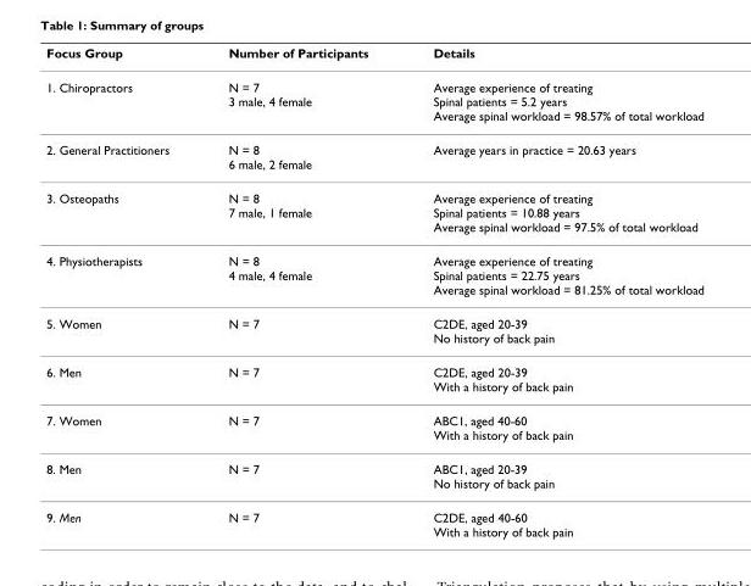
<table><thead><tr><td>Focus Group</td><td>Number of Participants</td><td>Details</td></tr></thead><tbody><tr><td>1. Chiropractors</td><td>N = 7 3 male, 4 female</td><td>Average experience of treating Spinal patients = 5.2 years Average spinal workload = 98.57% of total workload</td></tr><tr><td>2. General Practitioners</td><td>N = 8 6 male, 2 female</td><td>Average years in practice = 20.63 years</td></tr><tr><td>3. Osteopaths</td><td>N = 8 7 male, 1 female</td><td>Average experience of treating Spinal patients = 10.88 years Average spinal workload = 97.5% of total workload</td></tr><tr><td>4. Physiotherapists</td><td>N = 8 4 male, 4 female</td><td>Average experience of treating Spinal patients = 22.75 years Average spinal workload = 81.25% of total workload</td></tr><tr><td>5. Women</td><td>N = 7</td><td>C2DE, aged 20-39 No history of back pain</td></tr><tr><td>6. Men</td><td>N = 7</td><td>C2DE, aged 20-39 With a history of back pain</td></tr><tr><td>7. Women</td><td>N = 7</td><td>ABC1, aged 40-60 With a history of back pain</td></tr><tr><td>8. Men</td><td>N = 7</td><td>ABC1, aged 20-39 No history of back pain</td></tr><tr><td>9. Men</td><td>N = 7</td><td>C2DE, aged 40-60 With a history of back pain</td></tr></tbody></table>